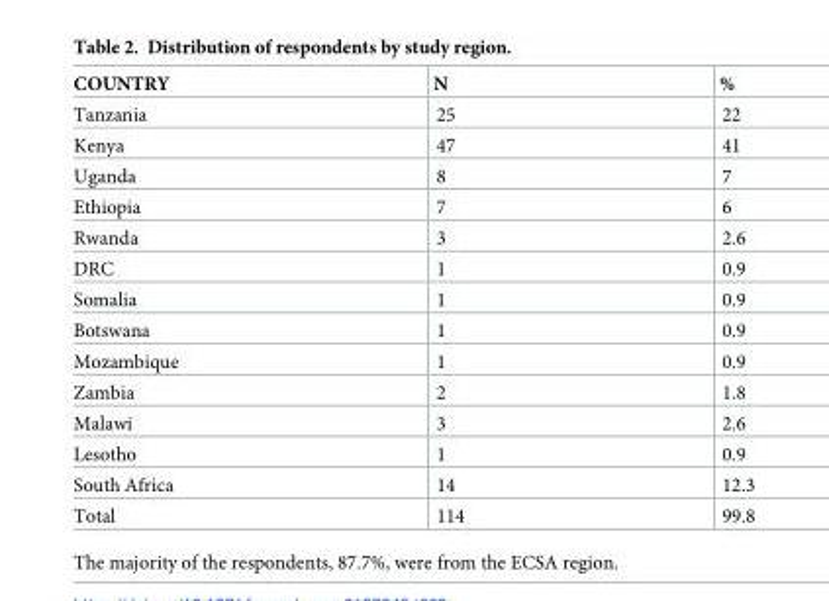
<table><thead><tr><td>COUNTRY</td><td>N</td><td>%</td></tr></thead><tbody><tr><td>Tanzania</td><td>25</td><td>22</td></tr><tr><td>Kenya</td><td>47</td><td>41</td></tr><tr><td>Uganda</td><td>8</td><td>7</td></tr><tr><td>Ethiopia</td><td>7</td><td>6</td></tr><tr><td>Rwanda</td><td>3</td><td>2.6</td></tr><tr><td>DRC</td><td>1</td><td>0.9</td></tr><tr><td>Somalia</td><td>1</td><td>0.9</td></tr><tr><td>Botswana</td><td>1</td><td>0.9</td></tr><tr><td>Mozambique</td><td>1</td><td>0.9</td></tr><tr><td>Zambia</td><td>2</td><td>1.8</td></tr><tr><td>Malawi</td><td>3</td><td>2.6</td></tr><tr><td>Lesotho</td><td>1</td><td>0.9</td></tr><tr><td>South Africa</td><td>14</td><td>12.3</td></tr><tr><td>Total</td><td>114</td><td>99.8</td></tr></tbody></table>